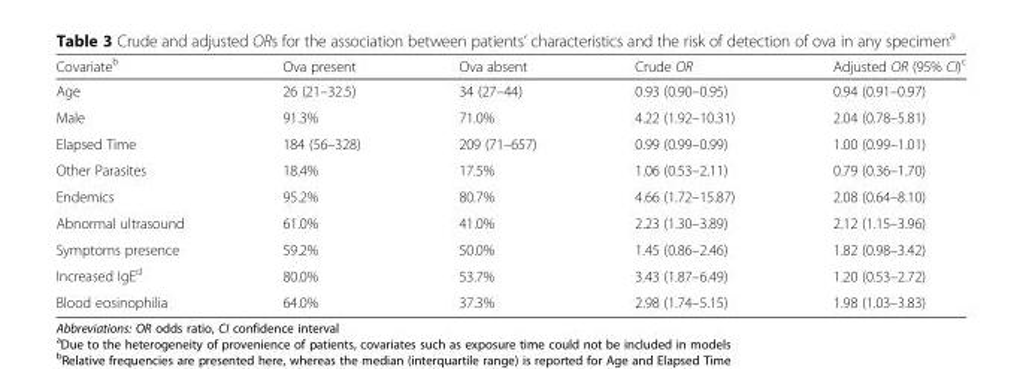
<table><thead><tr><td>Covariate<sup>b</sup></td><td>Ova present</td><td>Ova absent</td><td>Crude OR</td><td>Adjusted OR (95% CI)<sup>c</sup></td></tr></thead><tbody><tr><td>Age</td><td>26 (21–32.5)</td><td>34 (27–44)</td><td>0.93 (0.90–0.95)</td><td>0.94 (0.91–0.97)</td></tr><tr><td>Male</td><td>91.3%</td><td>71.0%</td><td>4.22 (1.92–10.31)</td><td>2.04 (0.78–5.81)</td></tr><tr><td>Elapsed Time</td><td>184 (56–328)</td><td>209 (71–657)</td><td>0.99 (0.99–0.99)</td><td>1.00 (0.99–1.01)</td></tr><tr><td>Other Parasites</td><td>18.4%</td><td>17.5%</td><td>1.06 (0.53–2.11)</td><td>0.79 (0.36–1.70)</td></tr><tr><td>Endemics</td><td>95.2%</td><td>80.7%</td><td>4.66 (1.72–15.87)</td><td>2.08 (0.64–8.10)</td></tr><tr><td>Abnormal ultrasound</td><td>61.0%</td><td>41.0%</td><td>2.23 (1.30–3.89)</td><td>2.12 (1.15–3.96)</td></tr><tr><td>Symptoms presence</td><td>59.2%</td><td>50.0%</td><td>1.45 (0.86–2.46)</td><td>1.82 (0.98–3.42)</td></tr><tr><td>Increased IgE<sup>d</sup></td><td>80.0%</td><td>53.7%</td><td>3.43 (1.87–6.49)</td><td>1.20 (0.53–2.72)</td></tr><tr><td>Blood eosinophilia</td><td>64.0%</td><td>37.3%</td><td>2.98 (1.74–5.15)</td><td>1.98 (1.03–3.83)</td></tr></tbody></table>